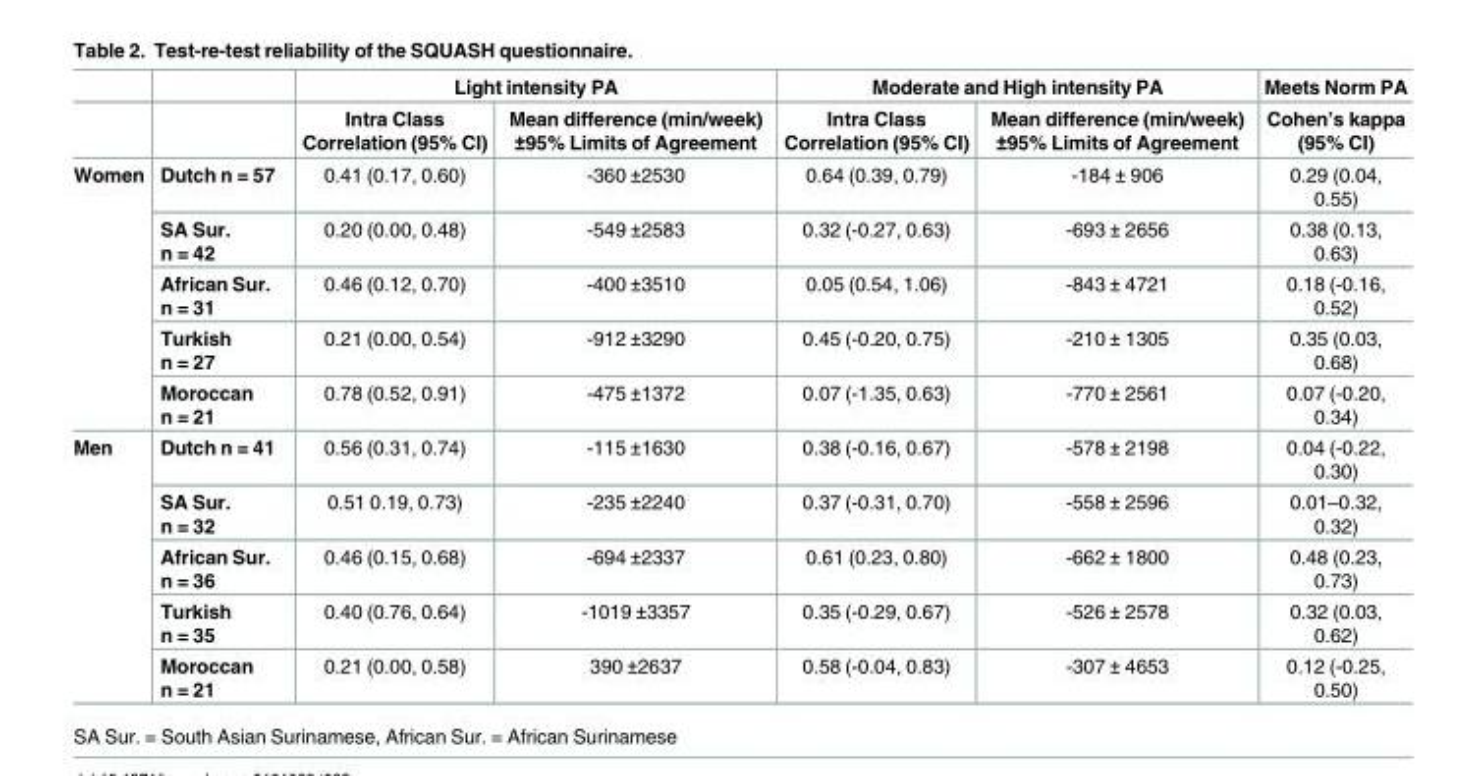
<table><thead><tr><td rowspan="2"></td><td rowspan="2"></td><td colspan="2">Light intensity PA</td><td colspan="2">Moderate and High intensity PA</td><td rowspan="2">Meets Norm PA Cohen’s kappa (95% CI)</td></tr><tr><td>Intra Class Correlation (95% CI)</td><td>Mean difference (min/week) ±95% Limits of Agreement</td><td>Intra Class Correlation (95% CI)</td><td>Mean difference (min/week) ±95% Limits of Agreement</td></tr></thead><tbody><tr><td rowspan="5">Women</td><td>Dutch n = 57</td><td>0.41 (0.17, 0.60)</td><td>-360 ±2530</td><td>0.64 (0.39, 0.79)</td><td>-184 ± 906</td><td>0.29 (0.04, 0.55)</td></tr><tr><td>SA Sur. n = 42</td><td>0.20 (0.00, 0.48)</td><td>-549 ±2583</td><td>0.32 (-0.27, 0.63)</td><td>-693 ± 2656</td><td>0.38 (0.13, 0.63)</td></tr><tr><td>African Sur. n = 31</td><td>0.46 (0.12, 0.70)</td><td>-400 ±3510</td><td>0.05 (0.54, 1.06)</td><td>-843 ± 4721</td><td>0.18 (-0.16, 0.52)</td></tr><tr><td>Turkish n = 27</td><td>0.21 (0.00, 0.54)</td><td>-912 ±3290</td><td>0.45 (-0.20, 0.75)</td><td>-210 ± 1305</td><td>0.35 (0.03, 0.68)</td></tr><tr><td>Moroccan n = 21</td><td>0.78 (0.52, 0.91)</td><td>-475 ±1372</td><td>0.07 (-1.35, 0.63)</td><td>-770 ± 2561</td><td>0.07 (-0.20, 0.34)</td></tr><tr><td rowspan="5">Men</td><td>Dutch n = 41</td><td>0.56 (0.31, 0.74)</td><td>-115 ±1630</td><td>0.38 (-0.16, 0.67)</td><td>-578 ± 2198</td><td>0.04 (-0.22, 0.30)</td></tr><tr><td>SA Sur. n = 32</td><td>0.51 0.19, 0.73)</td><td>-235 ±2240</td><td>0.37 (-0.31, 0.70)</td><td>-558 ± 2596</td><td>0.01–0.32, 0.32)</td></tr><tr><td>African Sur. n = 36</td><td>0.46 (0.15, 0.68)</td><td>-694 ±2337</td><td>0.61 (0.23, 0.80)</td><td>-662 ± 1800</td><td>0.48 (0.23, 0.73)</td></tr><tr><td>Turkish n = 35</td><td>0.40 (0.76, 0.64)</td><td>-1019 ±3357</td><td>0.35 (-0.29, 0.67)</td><td>-526 ± 2578</td><td>0.32 (0.03, 0.62)</td></tr><tr><td>Moroccan n = 21</td><td>0.21 (0.00, 0.58)</td><td>390 ±2637</td><td>0.58 (-0.04, 0.83)</td><td>-307 ± 4653</td><td>0.12 (-0.25, 0.50)</td></tr></tbody></table>